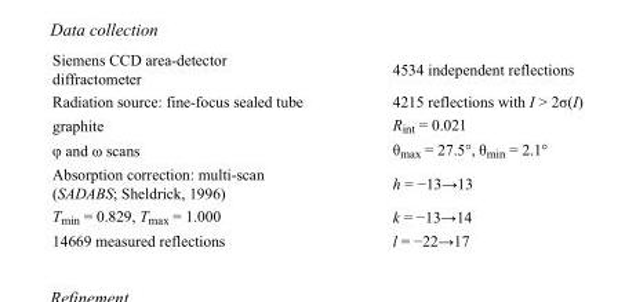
<table><tbody><tr><td>Siemens CCD area-detector diffractometer</td><td>4534 independent reflections</td></tr><tr><td>Radiation source: fine-focus sealed tube</td><td>4215 reflections with I &gt; 2σ(I)</td></tr><tr><td>graphite</td><td>R<sub>int</sub> = 0.021</td></tr><tr><td>φ and ω scans</td><td>θ<sub>max</sub> = 27.5°, θ<sub>min</sub> = 2.1°</td></tr><tr><td>Absorption correction: multi-scan (SADABS; Sheldrick, 1996)</td><td>h = −13→13</td></tr><tr><td>T<sub>min</sub> = 0.829, T<sub>max</sub> = 1.000</td><td>k = −13→14</td></tr><tr><td>14669 measured reflections</td><td>l = −22→17</td></tr></tbody></table>